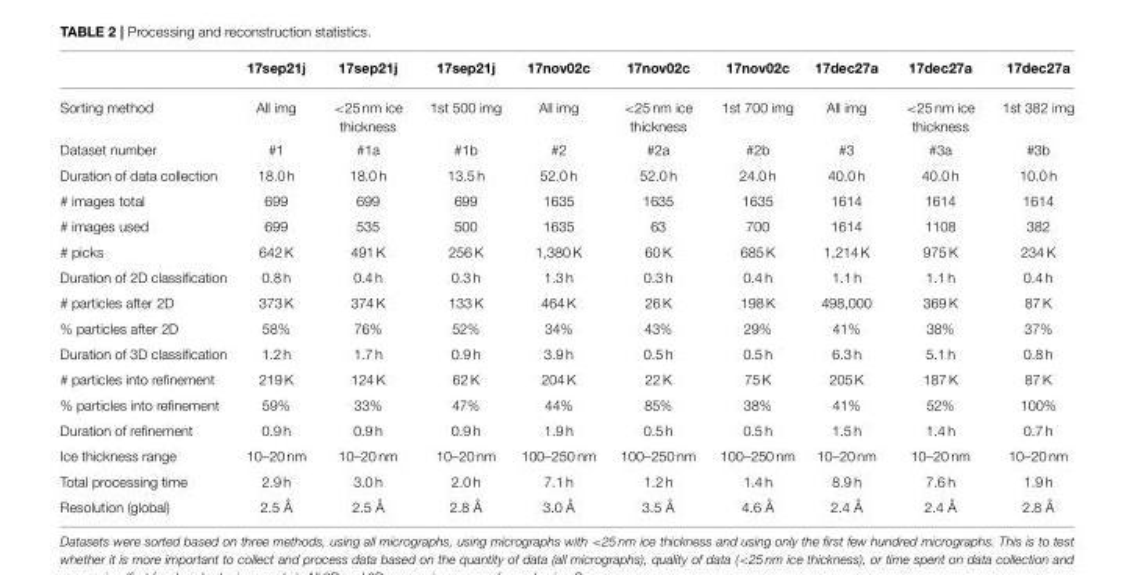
<table><thead><tr><td></td><td>17sep21j</td><td>17sep21j</td><td>17sep21j</td><td>17nov02c</td><td>17nov02c</td><td>17nov02c</td><td>17dec27a</td><td>17dec27a</td><td>17dec27a</td></tr></thead><tbody><tr><td>Sorting method</td><td>All img</td><td>&lt;25 nm ice thickness</td><td>1st 500 img</td><td>All img</td><td>&lt;25 nm ice thickness</td><td>1st 700 img</td><td>All img</td><td>&lt;25 nm ice thickness</td><td>1st 382 img</td></tr><tr><td>Dataset number</td><td>#1</td><td>#1a</td><td>#1b</td><td>#2</td><td>#2a</td><td>#2b</td><td>#3</td><td>#3a</td><td>#3b</td></tr><tr><td>Duration of data collection</td><td>18.0 h</td><td>18.0 h</td><td>13.5 h</td><td>52.0 h</td><td>52.0 h</td><td>24.0 h</td><td>40.0 h</td><td>40.0 h</td><td>10.0 h</td></tr><tr><td># images total</td><td>699</td><td>699</td><td>699</td><td>1635</td><td>1635</td><td>1635</td><td>1614</td><td>1614</td><td>1614</td></tr><tr><td># images used</td><td>699</td><td>535</td><td>500</td><td>1635</td><td>63</td><td>700</td><td>1614</td><td>1108</td><td>382</td></tr><tr><td># picks</td><td>642 K</td><td>491 K</td><td>256 K</td><td>1,380 K</td><td>60 K</td><td>685 K</td><td>1,214 K</td><td>975 K</td><td>234 K</td></tr><tr><td>Duration of 2D classification</td><td>0.8 h</td><td>0.4 h</td><td>0.3 h</td><td>1.3 h</td><td>0.3 h</td><td>0.4 h</td><td>1.1 h</td><td>1.1 h</td><td>0.4 h</td></tr><tr><td># particles after 2D</td><td>373 K</td><td>374 K</td><td>133 K</td><td>464 K</td><td>26 K</td><td>198 K</td><td>498,000</td><td>369 K</td><td>87 K</td></tr><tr><td>% particles after 2D</td><td>58%</td><td>76%</td><td>52%</td><td>34%</td><td>43%</td><td>29%</td><td>41%</td><td>38%</td><td>37%</td></tr><tr><td>Duration of 3D classification</td><td>1.2 h</td><td>1.7 h</td><td>0.9 h</td><td>3.9 h</td><td>0.5 h</td><td>0.5 h</td><td>6.3 h</td><td>5.1 h</td><td>0.8 h</td></tr><tr><td># particles into refinement</td><td>219 K</td><td>124 K</td><td>62 K</td><td>204 K</td><td>22 K</td><td>75 K</td><td>205 K</td><td>187 K</td><td>87 K</td></tr><tr><td>% particles into refinement</td><td>59%</td><td>33%</td><td>47%</td><td>44%</td><td>85%</td><td>38%</td><td>41%</td><td>52%</td><td>100%</td></tr><tr><td>Duration of refinement</td><td>0.9 h</td><td>0.9 h</td><td>0.9 h</td><td>1.9 h</td><td>0.5 h</td><td>0.5 h</td><td>1.5 h</td><td>1.4 h</td><td>0.7 h</td></tr><tr><td>Ice thickness range</td><td>10–20 nm</td><td>10–20 nm</td><td>10–20 nm</td><td>100–250 nm</td><td>100–250 nm</td><td>100–250 nm</td><td>10–20 nm</td><td>10–20 nm</td><td>10–20 nm</td></tr><tr><td>Total processing time</td><td>2.9 h</td><td>3.0 h</td><td>2.0 h</td><td>7.1 h</td><td>1.2 h</td><td>1.4 h</td><td>8.9 h</td><td>7.6 h</td><td>1.9 h</td></tr><tr><td>Resolution (global)</td><td>2.5 Å</td><td>2.5 Å</td><td>2.8 Å</td><td>3.0 Å</td><td>3.5 Å</td><td>4.6 Å</td><td>2.4 Å</td><td>2.4 Å</td><td>2.8 Å</td></tr></tbody></table>